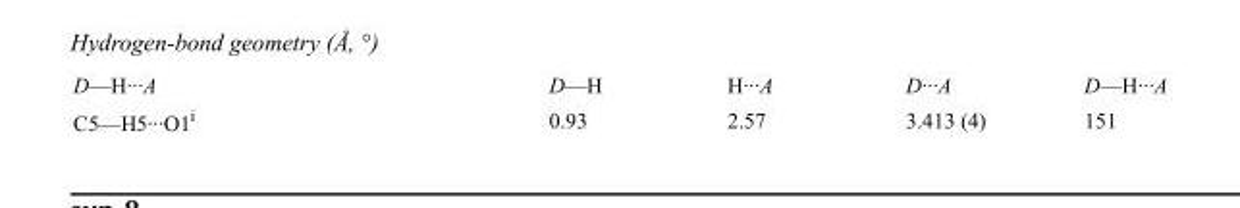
<table><tbody><tr><td>D—H···A</td><td>D—H</td><td>H···A</td><td>D···A</td><td>D—H···A</td></tr><tr><td>C5—H5···O1<sup>i</sup></td><td>0.93</td><td>2.57</td><td>3.413 (4)</td><td>151</td></tr></tbody></table>